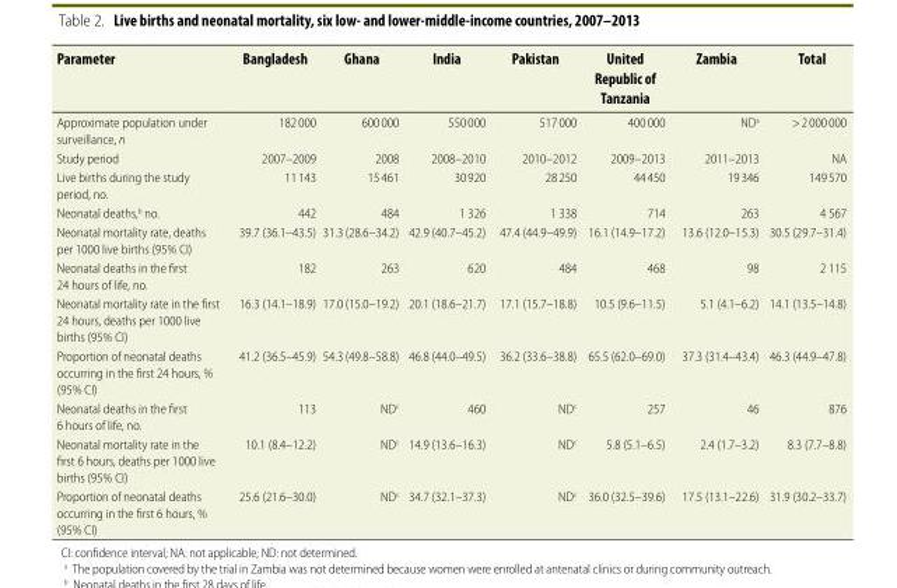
<table><thead><tr><td>Parameter</td><td>Bangladesh</td><td>Ghana</td><td>India</td><td>Pakistan</td><td>United Republic of Tanzania</td><td>Zambia</td><td>Total</td></tr></thead><tbody><tr><td>Approximate population under surveillance, n</td><td>182 000</td><td>600 000</td><td>550 000</td><td>517 000</td><td>400 000</td><td>ND<sup>a</sup></td><td>&gt; 2 000 000</td></tr><tr><td>Study period</td><td>2007–2009</td><td>2008</td><td>2008–2010</td><td>2010–2012</td><td>2009–2013</td><td>2011–2013</td><td>NA</td></tr><tr><td>Live births during the study period, no.</td><td>11 143</td><td>15 461</td><td>30 920</td><td>28 250</td><td>44 450</td><td>19 346</td><td>149 570</td></tr><tr><td>Neonatal deaths,<sup>b</sup> no.</td><td>442</td><td>484</td><td>1 326</td><td>1 338</td><td>714</td><td>263</td><td>4 567</td></tr><tr><td>Neonatal mortality rate, deaths per 1000 live births (95% CI)</td><td>39.7 (36.1–43.5)</td><td>31.3 (28.6–34.2)</td><td>42.9 (40.7–45.2)</td><td>47.4 (44.9–49.9)</td><td>16.1 (14.9–17.2)</td><td>13.6 (12.0–15.3)</td><td>30.5 (29.7–31.4)</td></tr><tr><td>Neonatal deaths in the first 24 hours of life, no.</td><td>182</td><td>263</td><td>620</td><td>484</td><td>468</td><td>98</td><td>2 115</td></tr><tr><td>Neonatal mortality rate in the first 24 hours, deaths per 1000 live births (95% CI)</td><td>16.3 (14.1–18.9)</td><td>17.0 (15.0–19.2)</td><td>20.1 (18.6–21.7)</td><td>17.1 (15.7–18.8)</td><td>10.5 (9.6–11.5)</td><td>5.1 (4.1–6.2)</td><td>14.1 (13.5–14.8)</td></tr><tr><td>Proportion of neonatal deaths occurring in the first 24 hours, % (95% CI)</td><td>41.2 (36.5–45.9)</td><td>54.3 (49.8–58.8)</td><td>46.8 (44.0–49.5)</td><td>36.2 (33.6–38.8)</td><td>65.5 (62.0–69.0)</td><td>37.3 (31.4–43.4)</td><td>46.3 (44.9–47.8)</td></tr><tr><td>Neonatal deaths in the first 6 hours of life, no.</td><td>113</td><td>ND<sup>c</sup></td><td>460</td><td>ND<sup>c</sup></td><td>257</td><td>46</td><td>876</td></tr><tr><td>Neonatal mortality rate in the first 6 hours, deaths per 1000 live births (95% CI)</td><td>10.1 (8.4–12.2)</td><td>ND<sup>c</sup></td><td>14.9 (13.6–16.3)</td><td>ND<sup>c</sup></td><td>5.8 (5.1–6.5)</td><td>2.4 (1.7–3.2)</td><td>8.3 (7.7–8.8)</td></tr><tr><td>Proportion of neonatal deaths occurring in the first 6 hours, % (95% CI)</td><td>25.6 (21.6–30.0)</td><td>ND<sup>c</sup></td><td>34.7 (32.1–37.3)</td><td>ND<sup>c</sup></td><td>36.0 (32.5–39.6)</td><td>17.5 (13.1–22.6)</td><td>31.9 (30.2–33.7)</td></tr></tbody></table>